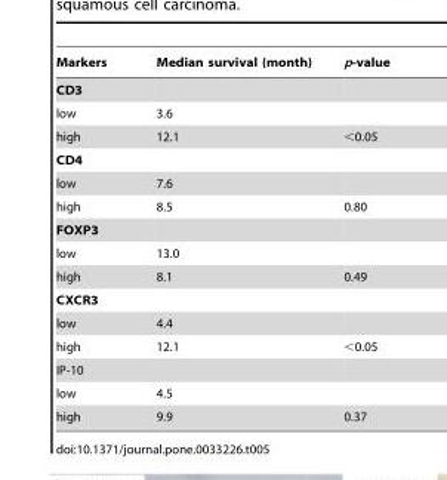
<table><thead><tr><td>Markers</td><td>Median survival (month)</td><td>p-value</td></tr></thead><tbody><tr><td colspan="3">CD3</td></tr><tr><td>low</td><td>3.6</td><td></td></tr><tr><td>high</td><td>12.1</td><td>&lt;0.05</td></tr><tr><td colspan="3">CD4</td></tr><tr><td>low</td><td>7.6</td><td></td></tr><tr><td>high</td><td>8.5</td><td>0.80</td></tr><tr><td colspan="3">FOXP3</td></tr><tr><td>low</td><td>13.0</td><td></td></tr><tr><td>high</td><td>8.1</td><td>0.49</td></tr><tr><td colspan="3">CXCR3</td></tr><tr><td>low</td><td>4.4</td><td></td></tr><tr><td>high</td><td>12.1</td><td>&lt;0.05</td></tr><tr><td colspan="3">IP-10</td></tr><tr><td>low</td><td>4.5</td><td></td></tr><tr><td>high</td><td>9.9</td><td>0.37</td></tr></tbody></table>